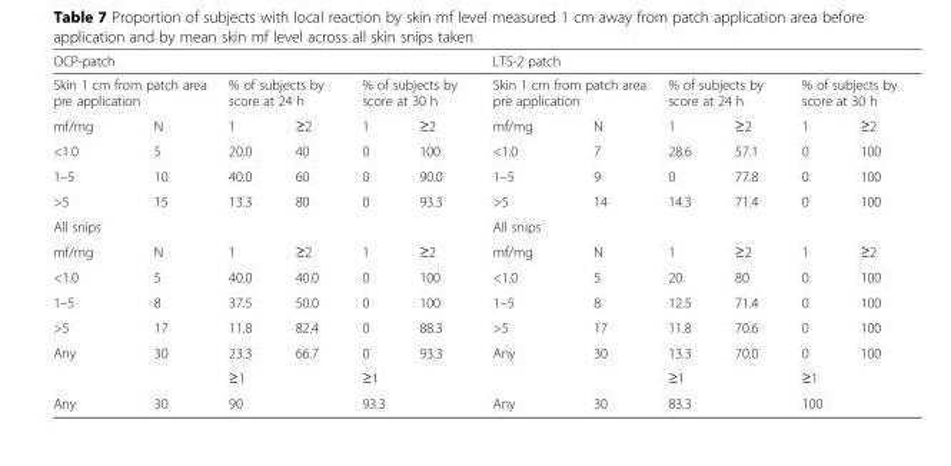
<table><thead><tr><td colspan="6">OCP-patch</td><td colspan="6">LTS-2 patch</td></tr><tr><td colspan="2">Skin 1 cm from patch area pre application</td><td colspan="2">% of subjects by score at 24 h</td><td colspan="2">% of subjects by score at 30 h</td><td colspan="2">Skin 1 cm from patch area pre application</td><td colspan="2">% of subjects by score at 24 h</td><td colspan="2">% of subjects by score at 30 h</td></tr><tr><td>mf/mg</td><td>N</td><td>1</td><td>≥2</td><td>1</td><td>≥2</td><td>mf/mg</td><td>N</td><td>1</td><td>≥2</td><td>1</td><td>≥2</td></tr></thead><tbody><tr><td>&lt;1.0</td><td>5</td><td>20.0</td><td>40</td><td>0</td><td>100</td><td>&lt;1.0</td><td>7</td><td>28.6</td><td>57.1</td><td>0</td><td>100</td></tr><tr><td>1–5</td><td>10</td><td>40.0</td><td>60</td><td>0</td><td>90.0</td><td>1–5</td><td>9</td><td>0</td><td>77.8</td><td>0</td><td>100</td></tr><tr><td>&gt;5</td><td>15</td><td>13.3</td><td>80</td><td>0</td><td>93.3</td><td>&gt;5</td><td>14</td><td>14.3</td><td>71.4</td><td>0</td><td>100</td></tr><tr><td colspan="2">All snips</td><td colspan="2"></td><td colspan="2"></td><td colspan="2">All snips</td><td colspan="2"></td><td colspan="2"></td></tr><tr><td>mf/mg</td><td>N</td><td>1</td><td>≥2</td><td>1</td><td>≥2</td><td>mf/mg</td><td>N</td><td>1</td><td>≥2</td><td>1</td><td>≥2</td></tr><tr><td>&lt;1.0</td><td>5</td><td>40.0</td><td>40.0</td><td>0</td><td>100</td><td>&lt;1.0</td><td>5</td><td>20</td><td>80</td><td>0</td><td>100</td></tr><tr><td>1–5</td><td>8</td><td>37.5</td><td>50.0</td><td>0</td><td>100</td><td>1–5</td><td>8</td><td>12.5</td><td>71.4</td><td>0</td><td>100</td></tr><tr><td>&gt;5</td><td>17</td><td>11.8</td><td>82.4</td><td>0</td><td>88.3</td><td>&gt;5</td><td>17</td><td>11.8</td><td>70.6</td><td>0</td><td>100</td></tr><tr><td rowspan="2">Any</td><td>30</td><td>23.3</td><td>66.7</td><td>0</td><td>93.3</td><td>Any</td><td>30</td><td>13.3</td><td>70.0</td><td>0</td><td>100</td></tr><tr><td></td><td colspan="2">≥1</td><td colspan="2">≥1</td><td></td><td></td><td colspan="2">≥1</td><td colspan="2">≥1</td></tr><tr><td>Any</td><td>30</td><td colspan="2">90</td><td colspan="2">93.3</td><td>Any</td><td>30</td><td colspan="2">83.3</td><td colspan="2">100</td></tr></tbody></table>